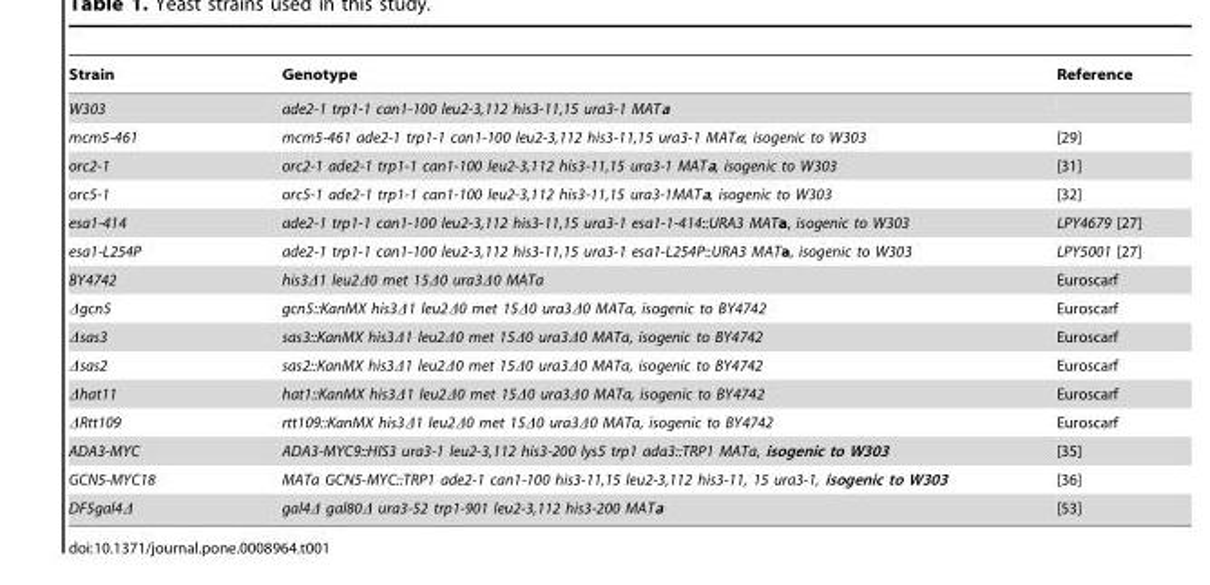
<table><thead><tr><td>Strain</td><td>Genotype</td><td>Reference</td></tr></thead><tbody><tr><td>W303</td><td>ade2-1 trp1-1 can1-100 leu2-3,112 his3-11,15 ura3-1 MATa</td><td></td></tr><tr><td>mcm5-461</td><td>mcm5-461 ade2-1 trp1-1 can1-100 leu2-3,112 his3-11,15 ura3-1 MATα, isogenic to W303</td><td>[29]</td></tr><tr><td>orc2-1</td><td>orc2-1 ade2-1 trp1-1 can1-100 leu2-3,112 his3-11,15 ura3-1 MATa, isogenic to W303</td><td>[31]</td></tr><tr><td>orc5-1</td><td>orc5-1 ade2-1 trp1-1 can1-100 leu2-3,112 his3-11,15 ura3-1MATa, isogenic to W303</td><td>[32]</td></tr><tr><td>esa1-414</td><td>ade2-1 trp1-1 can1-100 leu2-3,112 his3-11,15 ura3-1 esa1-1-414::URA3 MATa, isogenic to W303</td><td>LPY4679 [27]</td></tr><tr><td>esa1-L254P</td><td>ade2-1 trp1-1 can1-100 leu2-3,112 his3-11,15 ura3-1 esa1-L254P::URA3 MATa, isogenic to W303</td><td>LPY5001 [27]</td></tr><tr><td>BY4742</td><td>his3Δ1 leu2Δ0 met 15Δ0 ura3Δ0 MATa</td><td>Euroscarf</td></tr><tr><td>Δgcn5</td><td>gcn5::KanMX his3Δ1 leu2Δ0 met 15Δ0 ura3Δ0 MATa, isogenic to BY4742</td><td>Euroscarf</td></tr><tr><td>Δsas3</td><td>sas3::KanMX his3Δ1 leu2Δ0 met 15Δ0 ura3Δ0 MATa, isogenic to BY4742</td><td>Euroscarf</td></tr><tr><td>Δsas2</td><td>sas2::KanMX his3Δ1 leu2Δ0 met 15Δ0 ura3Δ0 MATa, isogenic to BY4742</td><td>Euroscarf</td></tr><tr><td>Δhat11</td><td>hat1::KanMX his3Δ1 leu2Δ0 met 15Δ0 ura3Δ0 MATa, isogenic to BY4742</td><td>Euroscarf</td></tr><tr><td>ΔRtt109</td><td>rtt109::KanMX his3Δ1 leu2Δ0 met 15Δ0 ura3Δ0 MATa, isogenic to BY4742</td><td>Euroscarf</td></tr><tr><td>ADA3-MYC</td><td>ADA3-MYC9::HIS3 ura3-1 leu2-3,112 his3-200 lys5 trp1 ada3::TRP1 MATa, isogenic to W303</td><td>[35]</td></tr><tr><td>GCN5-MYC18</td><td>MATa GCN5-MYC::TRP1 ade2-1 can1-100 his3-11,15 leu2-3,112 his3-11, 15 ura3-1, isogenic to W303</td><td>[36]</td></tr><tr><td>DF5gal4Δ</td><td>gal4Δ gal80Δ ura3-52 trp1-901 leu2-3,112 his3-200 MATa</td><td>[53]</td></tr></tbody></table>